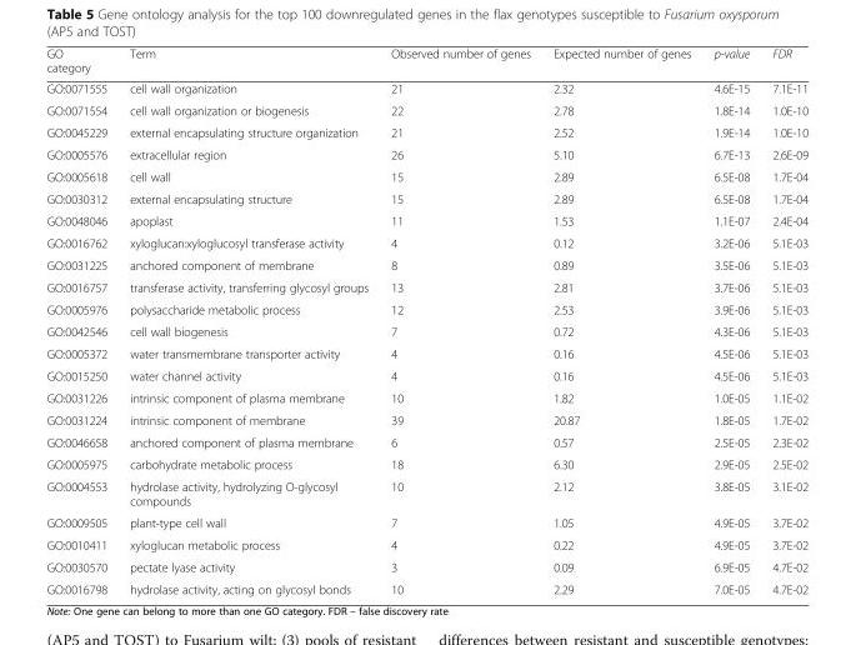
<table><thead><tr><td>GO category</td><td>Term</td><td>Observed number of genes</td><td>Expected number of genes</td><td>p-value</td><td>FDR</td></tr></thead><tbody><tr><td>GO:0071555</td><td>cell wall organization</td><td>21</td><td>2.32</td><td>4.6E-15</td><td>7.1E-11</td></tr><tr><td>GO:0071554</td><td>cell wall organization or biogenesis</td><td>22</td><td>2.78</td><td>1.8E-14</td><td>1.0E-10</td></tr><tr><td>GO:0045229</td><td>external encapsulating structure organization</td><td>21</td><td>2.52</td><td>1.9E-14</td><td>1.0E-10</td></tr><tr><td>GO:0005576</td><td>extracellular region</td><td>26</td><td>5.10</td><td>6.7E-13</td><td>2.6E-09</td></tr><tr><td>GO:0005618</td><td>cell wall</td><td>15</td><td>2.89</td><td>6.5E-08</td><td>1.7E-04</td></tr><tr><td>GO:0030312</td><td>external encapsulating structure</td><td>15</td><td>2.89</td><td>6.5E-08</td><td>1.7E-04</td></tr><tr><td>GO:0048046</td><td>apoplast</td><td>11</td><td>1.53</td><td>1.1E-07</td><td>2.4E-04</td></tr><tr><td>GO:0016762</td><td>xyloglucan:xyloglucosyl transferase activity</td><td>4</td><td>0.12</td><td>3.2E-06</td><td>5.1E-03</td></tr><tr><td>GO:0031225</td><td>anchored component of membrane</td><td>8</td><td>0.89</td><td>3.5E-06</td><td>5.1E-03</td></tr><tr><td>GO:0016757</td><td>transferase activity, transferring glycosyl groups</td><td>13</td><td>2.81</td><td>3.7E-06</td><td>5.1E-03</td></tr><tr><td>GO:0005976</td><td>polysaccharide metabolic process</td><td>12</td><td>2.53</td><td>3.9E-06</td><td>5.1E-03</td></tr><tr><td>GO:0042546</td><td>cell wall biogenesis</td><td>7</td><td>0.72</td><td>4.3E-06</td><td>5.1E-03</td></tr><tr><td>GO:0005372</td><td>water transmembrane transporter activity</td><td>4</td><td>0.16</td><td>4.5E-06</td><td>5.1E-03</td></tr><tr><td>GO:0015250</td><td>water channel activity</td><td>4</td><td>0.16</td><td>4.5E-06</td><td>5.1E-03</td></tr><tr><td>GO:0031226</td><td>intrinsic component of plasma membrane</td><td>10</td><td>1.82</td><td>1.0E-05</td><td>1.1E-02</td></tr><tr><td>GO:0031224</td><td>intrinsic component of membrane</td><td>39</td><td>20.87</td><td>1.8E-05</td><td>1.7E-02</td></tr><tr><td>GO:0046658</td><td>anchored component of plasma membrane</td><td>6</td><td>0.57</td><td>2.5E-05</td><td>2.3E-02</td></tr><tr><td>GO:0005975</td><td>carbohydrate metabolic process</td><td>18</td><td>6.30</td><td>2.9E-05</td><td>2.5E-02</td></tr><tr><td>GO:0004553</td><td>hydrolase activity, hydrolyzing O-glycosyl compounds</td><td>10</td><td>2.12</td><td>3.8E-05</td><td>3.1E-02</td></tr><tr><td>GO:0009505</td><td>plant-type cell wall</td><td>7</td><td>1.05</td><td>4.9E-05</td><td>3.7E-02</td></tr><tr><td>GO:0010411</td><td>xyloglucan metabolic process</td><td>4</td><td>0.22</td><td>4.9E-05</td><td>3.7E-02</td></tr><tr><td>GO:0030570</td><td>pectate lyase activity</td><td>3</td><td>0.09</td><td>6.9E-05</td><td>4.7E-02</td></tr><tr><td>GO:0016798</td><td>hydrolase activity, acting on glycosyl bonds</td><td>10</td><td>2.29</td><td>7.0E-05</td><td>4.7E-02</td></tr></tbody></table>